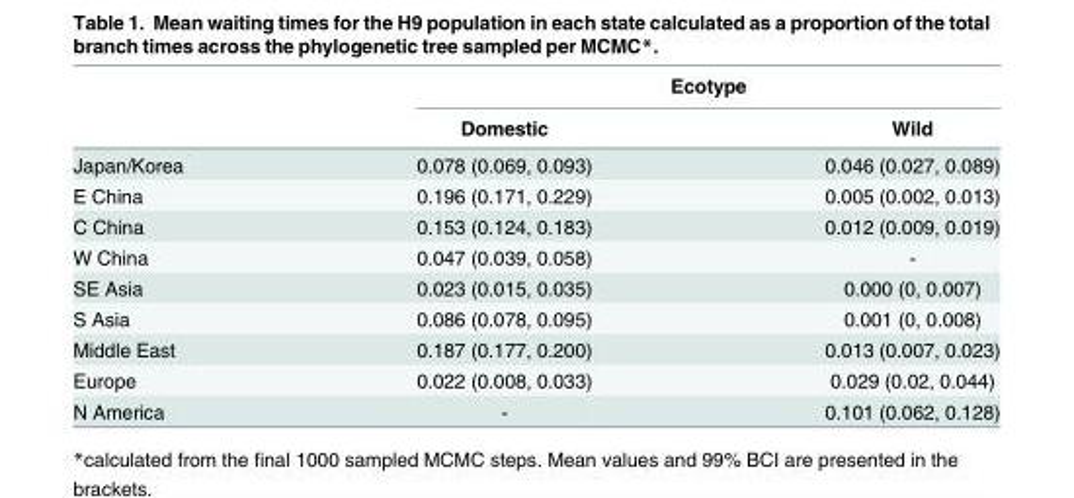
<table><thead><tr><td rowspan="2"></td><td colspan="2">Ecotype</td></tr><tr><td>Domestic</td><td>Wild</td></tr></thead><tbody><tr><td>Japan/Korea</td><td>0.078 (0.069, 0.093)</td><td>0.046 (0.027, 0.089)</td></tr><tr><td>E China</td><td>0.196 (0.171, 0.229)</td><td>0.005 (0.002, 0.013)</td></tr><tr><td>C China</td><td>0.153 (0.124, 0.183)</td><td>0.012 (0.009, 0.019)</td></tr><tr><td>W China</td><td>0.047 (0.039, 0.058)</td><td>-</td></tr><tr><td>SE Asia</td><td>0.023 (0.015, 0.035)</td><td>0.000 (0, 0.007)</td></tr><tr><td>S Asia</td><td>0.086 (0.078, 0.095)</td><td>0.001 (0, 0.008)</td></tr><tr><td>Middle East</td><td>0.187 (0.177, 0.200)</td><td>0.013 (0.007, 0.023)</td></tr><tr><td>Europe</td><td>0.022 (0.008, 0.033)</td><td>0.029 (0.02, 0.044)</td></tr><tr><td>N America</td><td>-</td><td>0.101 (0.062, 0.128)</td></tr></tbody></table>